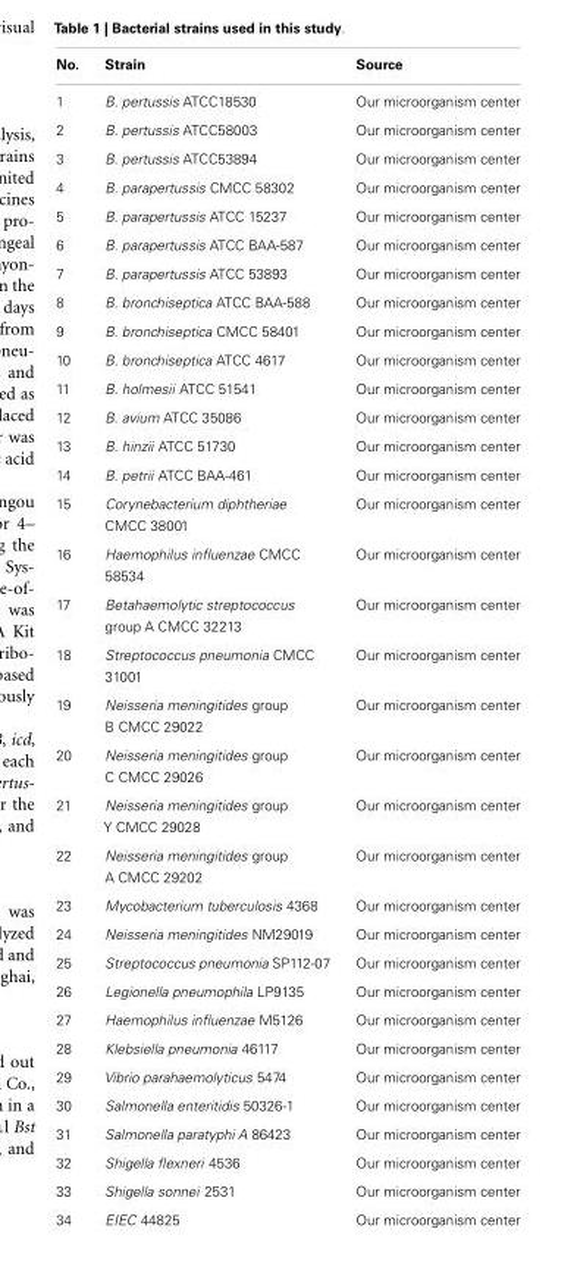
<table><thead><tr><td>No.</td><td>Strain</td><td>Source</td></tr></thead><tbody><tr><td>1</td><td>B. pertussis ATCC18530</td><td>Our microorganism center</td></tr><tr><td>2</td><td>B. pertussis ATCC58003</td><td>Our microorganism center</td></tr><tr><td>3</td><td>B. pertussis ATCC53894</td><td>Our microorganism center</td></tr><tr><td>4</td><td>B. parapertussis CMCC 58302</td><td>Our microorganism center</td></tr><tr><td>5</td><td>B. parapertussis ATCC 15237</td><td>Our microorganism center</td></tr><tr><td>6</td><td>B. parapertussis ATCC BAA-587</td><td>Our microorganism center</td></tr><tr><td>7</td><td>B. parapertussis ATCC 53893</td><td>Our microorganism center</td></tr><tr><td>8</td><td>B. bronchiseptica ATCC BAA-588</td><td>Our microorganism center</td></tr><tr><td>9</td><td>B. bronchiseptica CMCC 58401</td><td>Our microorganism center</td></tr><tr><td>10</td><td>B. bronchiseptica ATCC 4617</td><td>Our microorganism center</td></tr><tr><td>11</td><td>B. holmesii ATCC 51541</td><td>Our microorganism center</td></tr><tr><td>12</td><td>B. avium ATCC 35086</td><td>Our microorganism center</td></tr><tr><td>13</td><td>B. hinzii ATCC 51730</td><td>Our microorganism center</td></tr><tr><td>14</td><td>B. petrii ATCC BAA-461</td><td>Our microorganism center</td></tr><tr><td>15</td><td>Corynebacterium diphtheriae CMCC 38001</td><td>Our microorganism center</td></tr><tr><td>16</td><td>Haemophilus influenzae CMCC 58534</td><td>Our microorganism center</td></tr><tr><td>17</td><td>Betahaemolytic streptococcus group A CMCC 32213</td><td>Our microorganism center</td></tr><tr><td>18</td><td>Streptococcus pneumonia CMCC 31001</td><td>Our microorganism center</td></tr><tr><td>19</td><td>Neisseria meningitides group B CMCC 29022</td><td>Our microorganism center</td></tr><tr><td>20</td><td>Neisseria meningitides group C CMCC 29026</td><td>Our microorganism center</td></tr><tr><td>21</td><td>Neisseria meningitides group Y CMCC 29028</td><td>Our microorganism center</td></tr><tr><td>22</td><td>Neisseria meningitides group A CMCC 29202</td><td>Our microorganism center</td></tr><tr><td>23</td><td>Mycobacterium tuberculosis 4368</td><td>Our microorganism center</td></tr><tr><td>24</td><td>Neisseria meningitides NM29019</td><td>Our microorganism center</td></tr><tr><td>25</td><td>Streptococcus pneumonia SP112-07</td><td>Our microorganism center</td></tr><tr><td>26</td><td>Legionella pneumophila LP9135</td><td>Our microorganism center</td></tr><tr><td>27</td><td>Haemophilus influenzae M5126</td><td>Our microorganism center</td></tr><tr><td>28</td><td>Klebsiella pneumonia 46117</td><td>Our microorganism center</td></tr><tr><td>29</td><td>Vibrio parahaemolyticus 5474</td><td>Our microorganism center</td></tr><tr><td>30</td><td>Salmonella enteritidis 50326-1</td><td>Our microorganism center</td></tr><tr><td>31</td><td>Salmonella paratyphi A 86423</td><td>Our microorganism center</td></tr><tr><td>32</td><td>Shigella flexneri 4536</td><td>Our microorganism center</td></tr><tr><td>33</td><td>Shigella sonnei 2531</td><td>Our microorganism center</td></tr><tr><td>34</td><td>EIEC 44825</td><td>Our microorganism center</td></tr></tbody></table>